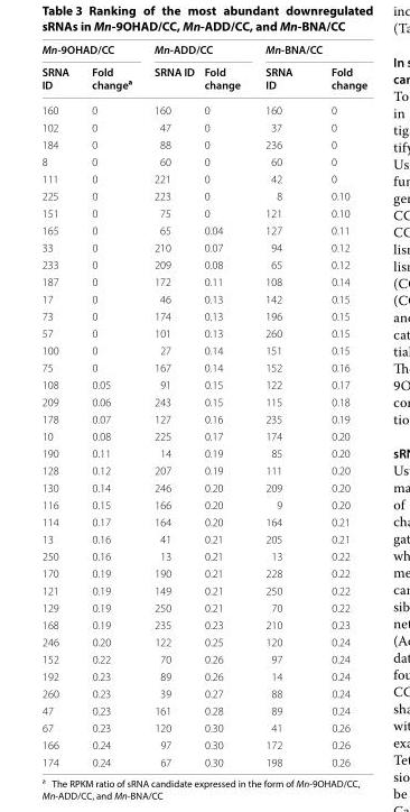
<table><thead><tr><td colspan="2">Mn-9OHAD/CC</td><td colspan="2">Mn-ADD/CC</td><td colspan="2">Mn-BNA/CC</td></tr><tr><td>SRNA ID</td><td>Fold change<sup>a</sup></td><td>SRNA ID</td><td>Fold change</td><td>SRNA ID</td><td>Fold change</td></tr></thead><tbody><tr><td>160</td><td>0</td><td>160</td><td>0</td><td>160</td><td>0</td></tr><tr><td>102</td><td>0</td><td>47</td><td>0</td><td>37</td><td>0</td></tr><tr><td>184</td><td>0</td><td>88</td><td>0</td><td>236</td><td>0</td></tr><tr><td>8</td><td>0</td><td>60</td><td>0</td><td>60</td><td>0</td></tr><tr><td>111</td><td>0</td><td>221</td><td>0</td><td>42</td><td>0</td></tr><tr><td>225</td><td>0</td><td>223</td><td>0</td><td>8</td><td>0.10</td></tr><tr><td>151</td><td>0</td><td>75</td><td>0</td><td>121</td><td>0.10</td></tr><tr><td>165</td><td>0</td><td>65</td><td>0.04</td><td>127</td><td>0.11</td></tr><tr><td>33</td><td>0</td><td>210</td><td>0.07</td><td>94</td><td>0.12</td></tr><tr><td>233</td><td>0</td><td>209</td><td>0.08</td><td>65</td><td>0.12</td></tr><tr><td>187</td><td>0</td><td>172</td><td>0.11</td><td>108</td><td>0.14</td></tr><tr><td>17</td><td>0</td><td>46</td><td>0.13</td><td>142</td><td>0.15</td></tr><tr><td>73</td><td>0</td><td>174</td><td>0.13</td><td>196</td><td>0.15</td></tr><tr><td>57</td><td>0</td><td>101</td><td>0.13</td><td>260</td><td>0.15</td></tr><tr><td>100</td><td>0</td><td>27</td><td>0.14</td><td>151</td><td>0.15</td></tr><tr><td>75</td><td>0</td><td>167</td><td>0.14</td><td>152</td><td>0.16</td></tr><tr><td>108</td><td>0.05</td><td>91</td><td>0.15</td><td>122</td><td>0.17</td></tr><tr><td>209</td><td>0.06</td><td>243</td><td>0.15</td><td>115</td><td>0.18</td></tr><tr><td>178</td><td>0.07</td><td>127</td><td>0.16</td><td>235</td><td>0.19</td></tr><tr><td>10</td><td>0.08</td><td>225</td><td>0.17</td><td>174</td><td>0.20</td></tr><tr><td>190</td><td>0.11</td><td>14</td><td>0.19</td><td>85</td><td>0.20</td></tr><tr><td>128</td><td>0.12</td><td>207</td><td>0.19</td><td>111</td><td>0.20</td></tr><tr><td>130</td><td>0.14</td><td>246</td><td>0.20</td><td>209</td><td>0.20</td></tr><tr><td>116</td><td>0.15</td><td>166</td><td>0.20</td><td>9</td><td>0.20</td></tr><tr><td>114</td><td>0.17</td><td>164</td><td>0.20</td><td>164</td><td>0.21</td></tr><tr><td>13</td><td>0.16</td><td>41</td><td>0.21</td><td>205</td><td>0.21</td></tr><tr><td>250</td><td>0.16</td><td>13</td><td>0.21</td><td>13</td><td>0.22</td></tr><tr><td>170</td><td>0.19</td><td>190</td><td>0.21</td><td>228</td><td>0.22</td></tr><tr><td>121</td><td>0.19</td><td>149</td><td>0.21</td><td>250</td><td>0.22</td></tr><tr><td>129</td><td>0.19</td><td>250</td><td>0.21</td><td>70</td><td>0.22</td></tr><tr><td>168</td><td>0.19</td><td>235</td><td>0.23</td><td>210</td><td>0.23</td></tr><tr><td>246</td><td>0.20</td><td>122</td><td>0.25</td><td>120</td><td>0.24</td></tr><tr><td>152</td><td>0.22</td><td>70</td><td>0.26</td><td>97</td><td>0.24</td></tr><tr><td>192</td><td>0.23</td><td>89</td><td>0.26</td><td>14</td><td>0.24</td></tr><tr><td>260</td><td>0.23</td><td>39</td><td>0.27</td><td>88</td><td>0.24</td></tr><tr><td>47</td><td>0.23</td><td>161</td><td>0.28</td><td>89</td><td>0.24</td></tr><tr><td>67</td><td>0.23</td><td>120</td><td>0.30</td><td>41</td><td>0.26</td></tr><tr><td>166</td><td>0.24</td><td>97</td><td>0.30</td><td>172</td><td>0.26</td></tr><tr><td>174</td><td>0.24</td><td>67</td><td>0.30</td><td>198</td><td>0.26</td></tr></tbody></table>